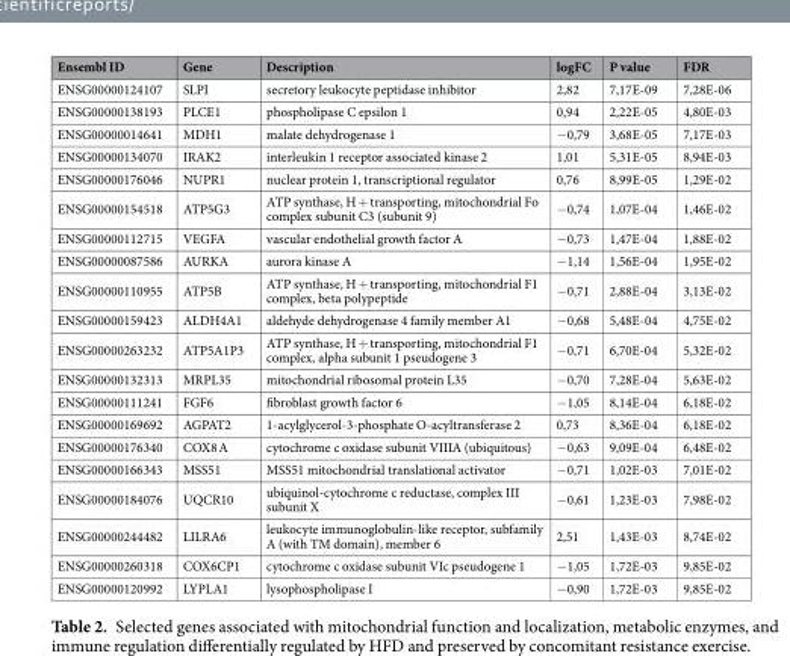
<table><thead><tr><td>Ensembl ID</td><td>Gene</td><td>Description</td><td>logFC</td><td>P value</td><td>FDR</td></tr></thead><tbody><tr><td>ENSG00000124107</td><td>SLPI</td><td>secretory leukocyte peptidase inhibitor</td><td>2,82</td><td>7,17E-09</td><td>7,28E-06</td></tr><tr><td>ENSG00000138193</td><td>PLCE1</td><td>phospholipase C epsilon 1</td><td>0,94</td><td>2,22E-05</td><td>4,80E-03</td></tr><tr><td>ENSG00000014641</td><td>MDH1</td><td>malate dehydrogenase 1</td><td>−0,79</td><td>3,68E-05</td><td>7,17E-03</td></tr><tr><td>ENSG00000134070</td><td>IRAK2</td><td>interleukin 1 receptor associated kinase 2</td><td>1,01</td><td>5,31E-05</td><td>8,94E-03</td></tr><tr><td>ENSG00000176046</td><td>NUPR1</td><td>nuclear protein 1, transcriptional regulator</td><td>0,76</td><td>8,99E-05</td><td>1,29E-02</td></tr><tr><td>ENSG00000154518</td><td>ATP5G3</td><td>ATP synthase, H + transporting, mitochondrial Fo complex subunit C3 (subunit 9)</td><td>−0,74</td><td>1,07E-04</td><td>1,46E-02</td></tr><tr><td>ENSG00000112715</td><td>VEGFA</td><td>vascular endothelial growth factor A</td><td>−0,73</td><td>1,47E-04</td><td>1,88E-02</td></tr><tr><td>ENSG00000087586</td><td>AURKA</td><td>aurora kinase A</td><td>−1,14</td><td>1,56E-04</td><td>1,95E-02</td></tr><tr><td>ENSG00000110955</td><td>ATP5B</td><td>ATP synthase, H + transporting, mitochondrial F1 complex, beta polypeptide</td><td>−0,71</td><td>2,88E-04</td><td>3,13E-02</td></tr><tr><td>ENSG00000159423</td><td>ALDH4A1</td><td>aldehyde dehydrogenase 4 family member A1</td><td>−0,68</td><td>5,48E-04</td><td>4,75E-02</td></tr><tr><td>ENSG00000263232</td><td>ATP5A1P3</td><td>ATP synthase, H + transporting, mitochondrial F1 complex, alpha subunit 1 pseudogene 3</td><td>−0,71</td><td>6,70E-04</td><td>5,32E-02</td></tr><tr><td>ENSG00000132313</td><td>MRPL35</td><td>mitochondrial ribosomal protein L35</td><td>−0,70</td><td>7,28E-04</td><td>5,63E-02</td></tr><tr><td>ENSG00000111241</td><td>FGF6</td><td>fibroblast growth factor 6</td><td>−1,05</td><td>8,14E-04</td><td>6,18E-02</td></tr><tr><td>ENSG00000169692</td><td>AGPAT2</td><td>1-acylglycerol-3-phosphate O-acyltransferase 2</td><td>0,73</td><td>8,36E-04</td><td>6,18E-02</td></tr><tr><td>ENSG00000176340</td><td>COX8 A</td><td>cytochrome c oxidase subunit VIIIA (ubiquitous)</td><td>−0,63</td><td>9,09E-04</td><td>6,48E-02</td></tr><tr><td>ENSG00000166343</td><td>MSS51</td><td>MSS51 mitochondrial translational activator</td><td>−0,71</td><td>1,02E-03</td><td>7,01E-02</td></tr><tr><td>ENSG00000184076</td><td>UQCR10</td><td>ubiquinol-cytochrome c reductase, complex III subunit X</td><td>−0,61</td><td>1,23E-03</td><td>7,98E-02</td></tr><tr><td>ENSG00000244482</td><td>LILRA6</td><td>leukocyte immunoglobulin-like receptor, subfamily A (with TM domain), member 6</td><td>2,51</td><td>1,43E-03</td><td>8,74E-02</td></tr><tr><td>ENSG00000260318</td><td>COX6CP1</td><td>cytochrome c oxidase subunit VIc pseudogene 1</td><td>−1,05</td><td>1,72E-03</td><td>9,85E-02</td></tr><tr><td>ENSG00000120992</td><td>LYPLA1</td><td>lysophospholipase I</td><td>−0,90</td><td>1,72E-03</td><td>9,85E-02</td></tr></tbody></table>